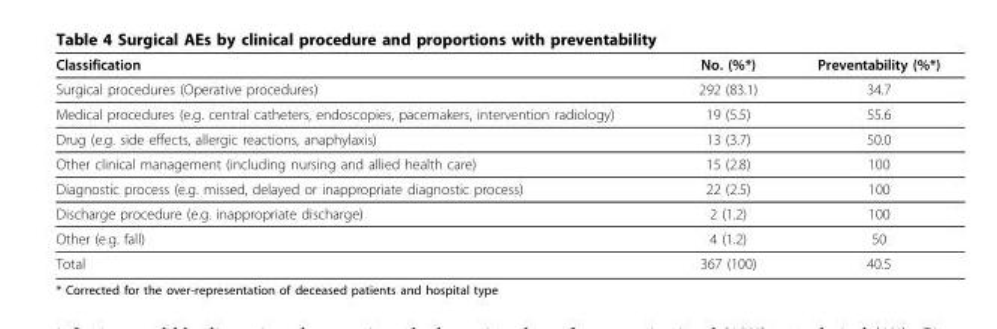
<table><thead><tr><td>Classification</td><td>No. (%*)</td><td>Preventability (%*)</td></tr></thead><tbody><tr><td>Surgical procedures (Operative procedures)</td><td>292 (83.1)</td><td>34.7</td></tr><tr><td>Medical procedures (e.g. central catheters, endoscopies, pacemakers, intervention radiology)</td><td>19 (5.5)</td><td>55.6</td></tr><tr><td>Drug (e.g. side effects, allergic reactions, anaphylaxis)</td><td>13 (3.7)</td><td>50.0</td></tr><tr><td>Other clinical management (including nursing and allied health care)</td><td>15 (2.8)</td><td>100</td></tr><tr><td>Diagnostic process (e.g. missed, delayed or inappropriate diagnostic process)</td><td>22 (2.5)</td><td>100</td></tr><tr><td>Discharge procedure (e.g. inappropriate discharge)</td><td>2 (1.2)</td><td>100</td></tr><tr><td>Other (e.g. fall)</td><td>4 (1.2)</td><td>50</td></tr><tr><td>Total</td><td>367 (100)</td><td>40.5</td></tr></tbody></table>